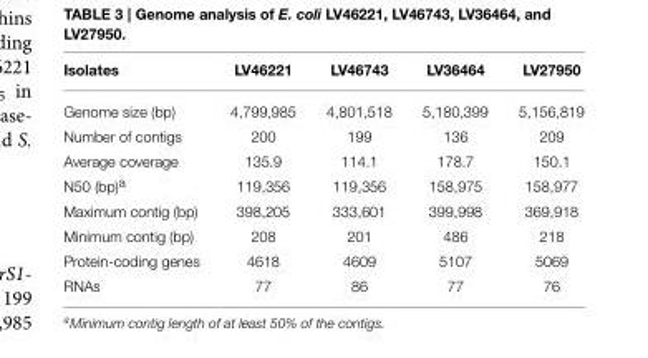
<table><thead><tr><td>Isolates</td><td>LV46221</td><td>LV46743</td><td>LV36464</td><td>LV27950</td></tr></thead><tbody><tr><td>Genome size (bp)</td><td>4,799,985</td><td>4,801,518</td><td>5,180,399</td><td>5,156,819</td></tr><tr><td>Number of contigs</td><td>200</td><td>199</td><td>136</td><td>209</td></tr><tr><td>Average coverage</td><td>135.9</td><td>114.1</td><td>178.7</td><td>150.1</td></tr><tr><td>N50 (bp)<sup>a</sup></td><td>119,356</td><td>119,356</td><td>158,975</td><td>158,977</td></tr><tr><td>Maximum contig (bp)</td><td>398,205</td><td>333,601</td><td>399,998</td><td>369,918</td></tr><tr><td>Minimum contig (bp)</td><td>208</td><td>201</td><td>486</td><td>218</td></tr><tr><td>Protein-coding genes</td><td>4618</td><td>4609</td><td>5107</td><td>5069</td></tr><tr><td>RNAs</td><td>77</td><td>86</td><td>77</td><td>76</td></tr></tbody></table>